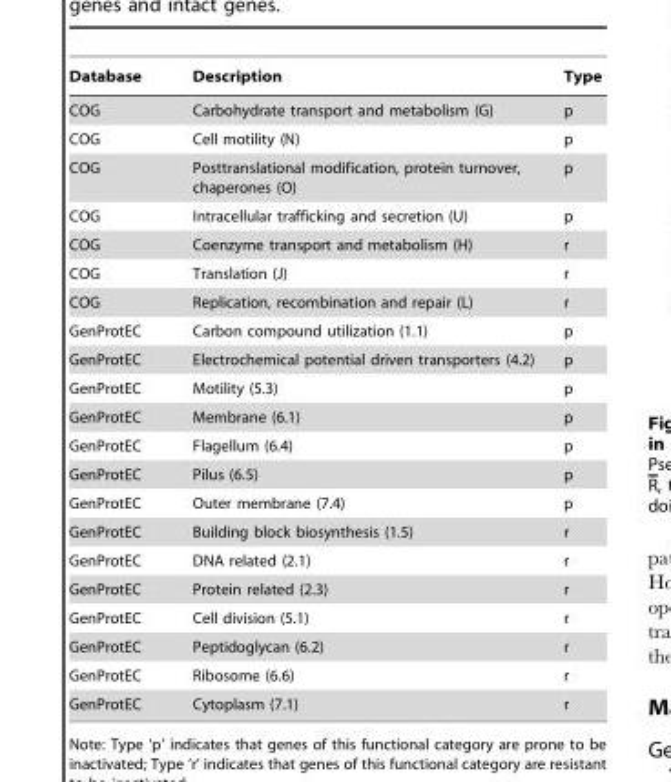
<table><thead><tr><td>Database</td><td>Description</td><td>Type</td></tr></thead><tbody><tr><td>COG</td><td>Carbohydrate transport and metabolism (G)</td><td>p</td></tr><tr><td>COG</td><td>Cell motility (N)</td><td>p</td></tr><tr><td>COG</td><td>Posttranslational modification, protein turnover, chaperones (O)</td><td>p</td></tr><tr><td>COG</td><td>Intracellular trafficking and secretion (U)</td><td>p</td></tr><tr><td>COG</td><td>Coenzyme transport and metabolism (H)</td><td>r</td></tr><tr><td>COG</td><td>Translation (J)</td><td>r</td></tr><tr><td>COG</td><td>Replication, recombination and repair (L)</td><td>r</td></tr><tr><td>GenProtEC</td><td>Carbon compound utilization (1.1)</td><td>p</td></tr><tr><td>GenProtEC</td><td>Electrochemical potential driven transporters (4.2)</td><td>p</td></tr><tr><td>GenProtEC</td><td>Motility (5.3)</td><td>p</td></tr><tr><td>GenProtEC</td><td>Membrane (6.1)</td><td>p</td></tr><tr><td>GenProtEC</td><td>Flagellum (6.4)</td><td>p</td></tr><tr><td>GenProtEC</td><td>Pilus (6.5)</td><td>p</td></tr><tr><td>GenProtEC</td><td>Outer membrane (7.4)</td><td>p</td></tr><tr><td>GenProtEC</td><td>Building block biosynthesis (1.5)</td><td>r</td></tr><tr><td>GenProtEC</td><td>DNA related (2.1)</td><td>r</td></tr><tr><td>GenProtEC</td><td>Protein related (2.3)</td><td>r</td></tr><tr><td>GenProtEC</td><td>Cell division (5.1)</td><td>r</td></tr><tr><td>GenProtEC</td><td>Peptidoglycan (6.2)</td><td>r</td></tr><tr><td>GenProtEC</td><td>Ribosome (6.6)</td><td>r</td></tr><tr><td>GenProtEC</td><td>Cytoplasm (7.1)</td><td>r</td></tr></tbody></table>